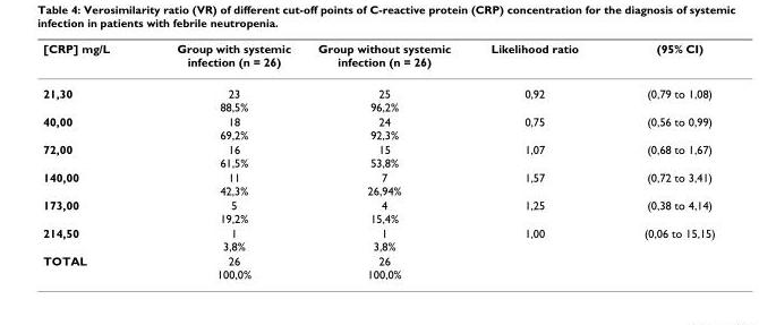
<table><thead><tr><td>[CRP] mg/L</td><td>Group with systemic infection (n = 26)</td><td>Group without systemic infection (n = 26)</td><td>Likelihood ratio</td><td>(95% CI)</td></tr></thead><tbody><tr><td>21,30</td><td>23 88,5%</td><td>25 96,2%</td><td>0,92</td><td>(0,79 to 1,08)</td></tr><tr><td>40,00</td><td>18 69,2%</td><td>24 92,3%</td><td>0,75</td><td>(0,56 to 0,99)</td></tr><tr><td>72,00</td><td>16 61,5%</td><td>15 53,8%</td><td>1,07</td><td>(0,68 to 1,67)</td></tr><tr><td>140,00</td><td>11 42,3%</td><td>7 26,94%</td><td>1,57</td><td>(0,72 to 3,41)</td></tr><tr><td>173,00</td><td>5 19,2%</td><td>4 15,4%</td><td>1,25</td><td>(0,38 to 4,14)</td></tr><tr><td>214,50</td><td>1 3,8%</td><td>1 3,8%</td><td>1,00</td><td>(0,06 to 15,15)</td></tr><tr><td>TOTAL</td><td>26 100,0%</td><td>26 100,0%</td><td></td><td></td></tr></tbody></table>